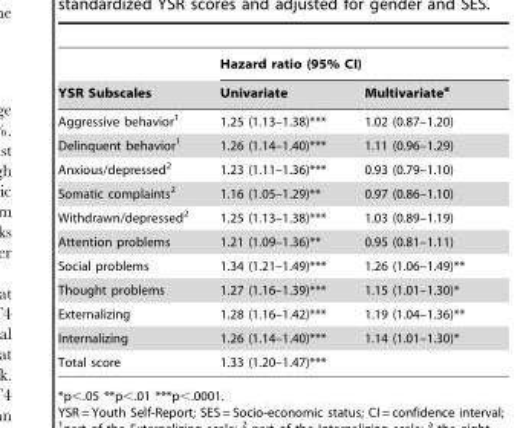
<table><thead><tr><td rowspan="2">YSR Subscales</td><td colspan="2">Hazard ratio (95% CI)</td></tr><tr><td>Univariate</td><td>Multivariate<sup>a</sup></td></tr></thead><tbody><tr><td>Aggressive behavior<sup>1</sup></td><td>1.25 (1.13–1.38)***</td><td>1.02 (0.87–1.20)</td></tr><tr><td>Delinquent behavior<sup>1</sup></td><td>1.26 (1.14–1.40)***</td><td>1.11 (0.96–1.29)</td></tr><tr><td>Anxious/depressed<sup>2</sup></td><td>1.23 (1.11–1.36)***</td><td>0.93 (0.79–1.10)</td></tr><tr><td>Somatic complaints<sup>2</sup></td><td>1.16 (1.05–1.29)**</td><td>0.97 (0.86–1.10)</td></tr><tr><td>Withdrawn/depressed<sup>2</sup></td><td>1.25 (1.13–1.38)***</td><td>1.03 (0.89–1.19)</td></tr><tr><td>Attention problems</td><td>1.21 (1.09–1.36)**</td><td>0.95 (0.81–1.11)</td></tr><tr><td>Social problems</td><td>1.34 (1.21–1.49)***</td><td>1.26 (1.06–1.49)**</td></tr><tr><td>Thought problems</td><td>1.27 (1.16–1.39)***</td><td>1.15 (1.01–1.30)*</td></tr><tr><td>Externalizing</td><td>1.28 (1.16–1.42)***</td><td>1.19 (1.04–1.36)**</td></tr><tr><td>Internalizing</td><td>1.26 (1.14–1.40)***</td><td>1.14 (1.01–1.30)*</td></tr><tr><td>Total score</td><td>1.33 (1.20–1.47)***</td><td></td></tr></tbody></table>